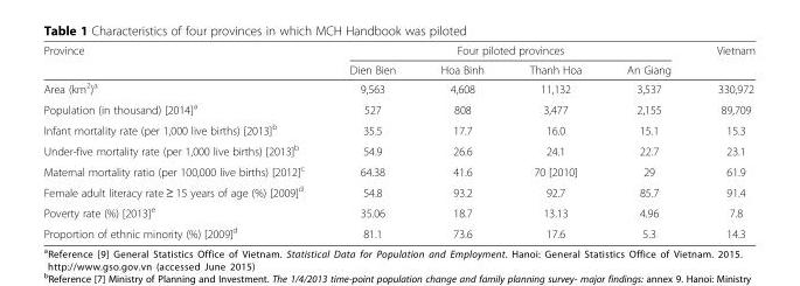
<table><thead><tr><td rowspan="2">Province</td><td colspan="4">Four piloted provinces</td><td rowspan="2">Vietnam</td></tr><tr><td>Dien Bien</td><td>Hoa Binh</td><td>Thanh Hoa</td><td>An Giang</td></tr></thead><tbody><tr><td>Area (km<sup>2</sup>)<sup>a</sup></td><td>9,563</td><td>4,608</td><td>11,132</td><td>3,537</td><td>330,972</td></tr><tr><td>Population (in thousand) [2014]<sup>a</sup></td><td>527</td><td>808</td><td>3,477</td><td>2,155</td><td>89,709</td></tr><tr><td>Infant mortality rate (per 1,000 live births) [2013]<sup>b</sup></td><td>35.5</td><td>17.7</td><td>16.0</td><td>15.1</td><td>15.3</td></tr><tr><td>Under-five mortality rate (per 1,000 live births) [2013]<sup>b</sup></td><td>54.9</td><td>26.6</td><td>24.1</td><td>22.7</td><td>23.1</td></tr><tr><td>Maternal mortality ratio (per 100,000 live births) [2012]<sup>c</sup></td><td>64.38</td><td>41.6</td><td>70 [2010]</td><td>29</td><td>61.9</td></tr><tr><td>Female adult literacy rate ≥ 15 years of age (%) [2009]<sup>d</sup></td><td>54.8</td><td>93.2</td><td>92.7</td><td>85.7</td><td>91.4</td></tr><tr><td>Poverty rate (%) [2013]<sup>e</sup></td><td>35.06</td><td>18.7</td><td>13.13</td><td>4.96</td><td>7.8</td></tr><tr><td>Proportion of ethnic minority (%) [2009]<sup>d</sup></td><td>81.1</td><td>73.6</td><td>17.6</td><td>5.3</td><td>14.3</td></tr></tbody></table>